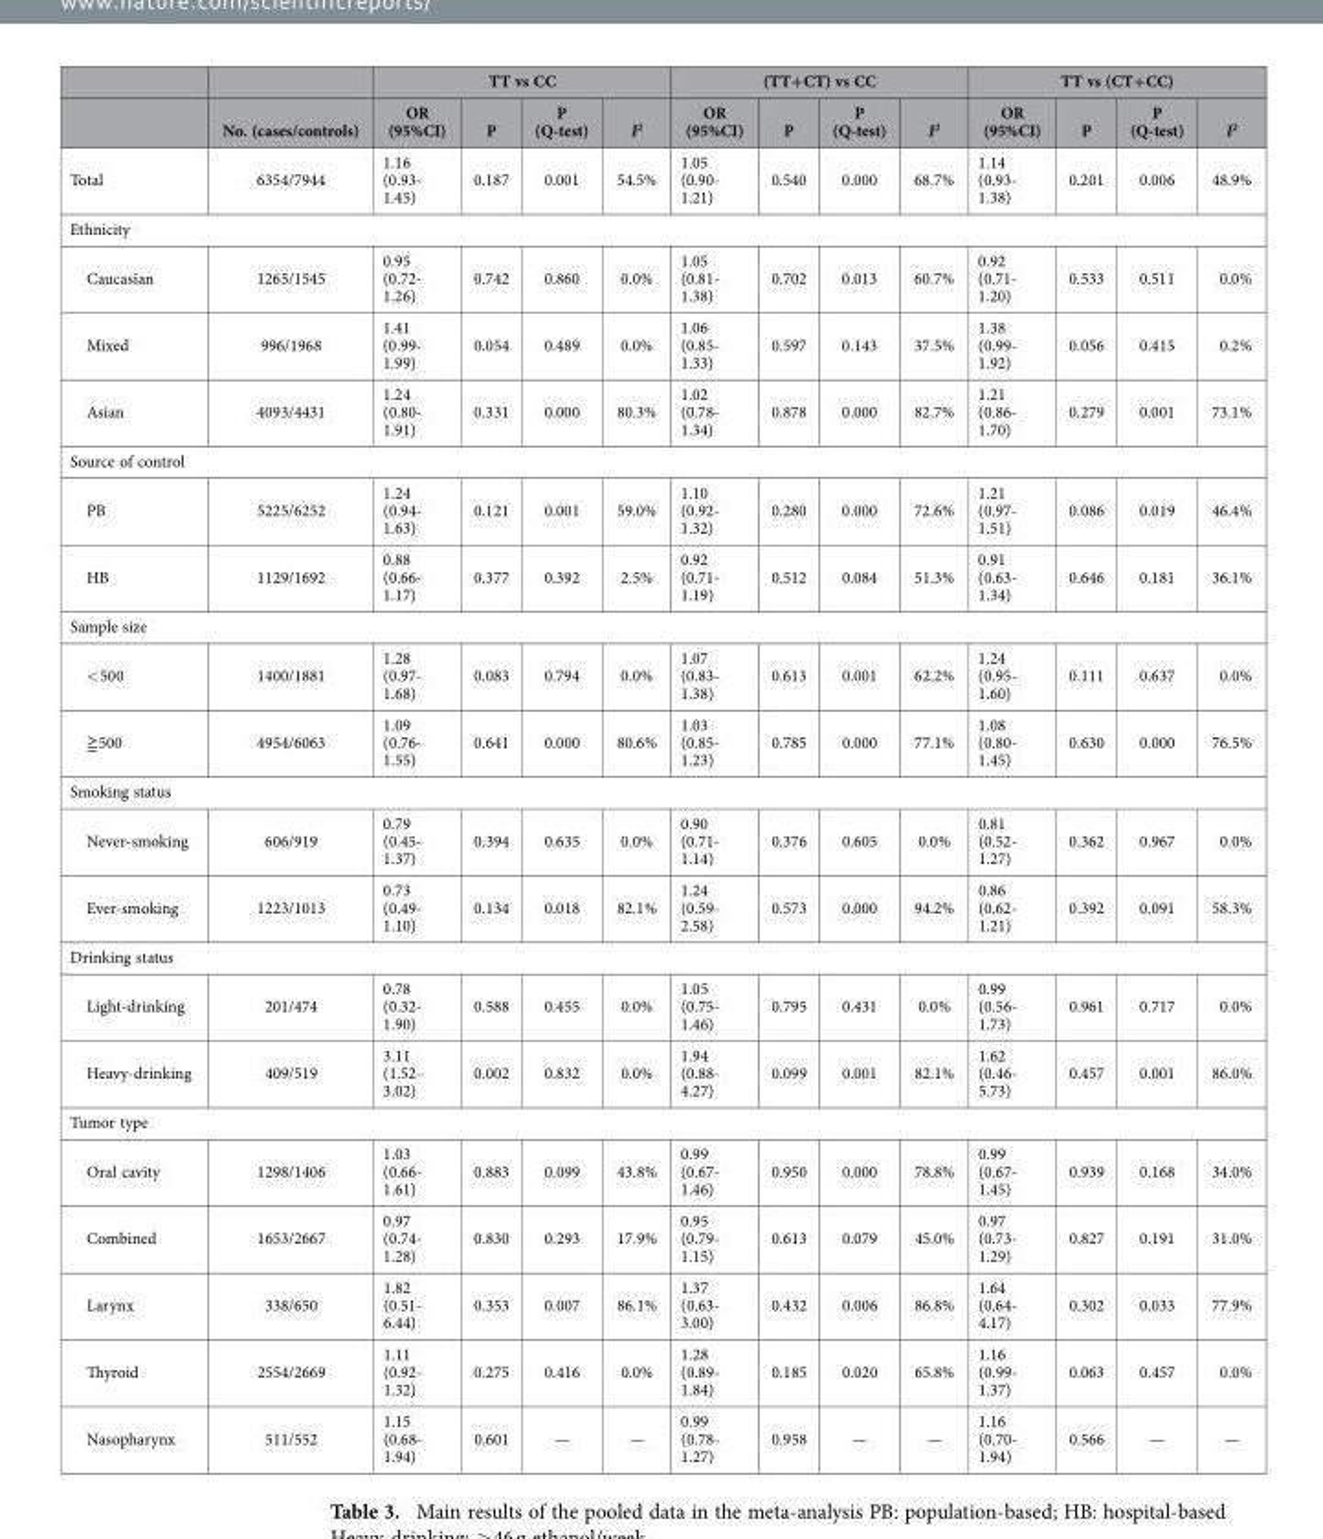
<table><thead><tr><td rowspan="2"></td><td rowspan="2">No. (cases/controls)</td><td colspan="4">TT vs CC</td><td colspan="4">(TT+CT) vs CC</td><td colspan="4">TT vs (CT+CC)</td></tr><tr><td>OR (95%CI)</td><td>P</td><td>P (Q-test)</td><td>I<sup>2</sup></td><td>OR (95%CI)</td><td>P</td><td>P (Q-test)</td><td>I<sup>2</sup></td><td>OR (95%CI)</td><td>P</td><td>P (Q-test)</td><td>I<sup>2</sup></td></tr></thead><tbody><tr><td>Total</td><td>6354/7944</td><td>1.16 (0.93- 1.45)</td><td>0.187</td><td>0.001</td><td>54.5%</td><td>1.05 (0.90- 1.21)</td><td>0.540</td><td>0.000</td><td>68.7%</td><td>1.14 (0.93- 1.38)</td><td>0.201</td><td>0.006</td><td>48.9%</td></tr><tr><td colspan="14">Ethnicity</td></tr><tr><td>Caucasian</td><td>1265/1545</td><td>0.95 (0.72- 1.26)</td><td>0.742</td><td>0.860</td><td>0.0%</td><td>1.05 (0.81- 1.38)</td><td>0.702</td><td>0.013</td><td>60.7%</td><td>0.92 (0.71- 1.20)</td><td>0.533</td><td>0.511</td><td>0.0%</td></tr><tr><td>Mixed</td><td>996/1968</td><td>1.41 (0.99- 1.99)</td><td>0.054</td><td>0.489</td><td>0.0%</td><td>1.06 (0.85- 1.33)</td><td>0.597</td><td>0.143</td><td>37.5%</td><td>1.38 (0.99- 1.92)</td><td>0.056</td><td>0.415</td><td>0.2%</td></tr><tr><td>Asian</td><td>4093/4431</td><td>1.24 (0.80- 1.91)</td><td>0.331</td><td>0.000</td><td>80.3%</td><td>1.02 (0.78- 1.34)</td><td>0.878</td><td>0.000</td><td>82.7%</td><td>1.21 (0.86- 1.70)</td><td>0.279</td><td>0.001</td><td>73.1%</td></tr><tr><td colspan="14">Source of control</td></tr><tr><td>PB</td><td>5225/6252</td><td>1.24 (0.94- 1.63)</td><td>0.121</td><td>0.001</td><td>59.0%</td><td>1.10 (0.92- 1.32)</td><td>0.280</td><td>0.000</td><td>72.6%</td><td>1.21 (0.97- 1.51)</td><td>0.086</td><td>0.019</td><td>46.4%</td></tr><tr><td>HB</td><td>1129/1692</td><td>0.88 (0.66- 1.17)</td><td>0.377</td><td>0.392</td><td>2.5%</td><td>0.92 (0.71- 1.19)</td><td>0.512</td><td>0.084</td><td>51.3%</td><td>0.91 (0.63- 1.34)</td><td>0.646</td><td>0.181</td><td>36.1%</td></tr><tr><td colspan="14">Sample size</td></tr><tr><td>&lt; 500</td><td>1400/1881</td><td>1.28 (0.97- 1.68)</td><td>0.083</td><td>0.794</td><td>0.0%</td><td>1.07 (0.83- 1.38)</td><td>0.613</td><td>0.001</td><td>62.2%</td><td>1.24 (0.95- 1.60)</td><td>0.111</td><td>0.637</td><td>0.0%</td></tr><tr><td>≧ 500</td><td>4954/6063</td><td>1.09 (0.76- 1.55)</td><td>0.641</td><td>0.000</td><td>80.6%</td><td>1.03 (0.85- 1.23)</td><td>0.785</td><td>0.000</td><td>77.1%</td><td>1.08 (0.80- 1.45)</td><td>0.630</td><td>0.000</td><td>76.5%</td></tr><tr><td colspan="14">Smoking status</td></tr><tr><td>Never-smoking</td><td>606/919</td><td>0.79 (0.45- 1.37)</td><td>0.394</td><td>0.635</td><td>0.0%</td><td>0.90 (0.71- 1.14)</td><td>0.376</td><td>0.605</td><td>0.0%</td><td>0.81 (0.52- 1.27)</td><td>0.362</td><td>0.967</td><td>0.0%</td></tr><tr><td>Ever-smoking</td><td>1223/1013</td><td>0.73 (0.49- 1.10)</td><td>0.134</td><td>0.018</td><td>82.1%</td><td>1.24 (0.59- 2.58)</td><td>0.573</td><td>0.000</td><td>94.2%</td><td>0.86 (0.62- 1.21)</td><td>0.392</td><td>0.091</td><td>58.3%</td></tr><tr><td colspan="14">Drinking status</td></tr><tr><td>Light-drinking</td><td>201/474</td><td>0.78 (0.32- 1.90)</td><td>0.588</td><td>0.455</td><td>0.0%</td><td>1.05 (0.75- 1.46)</td><td>0.795</td><td>0.431</td><td>0.0%</td><td>0.99 (0.56- 1.73)</td><td>0.961</td><td>0.717</td><td>0.0%</td></tr><tr><td>Heavy-drinking</td><td>409/519</td><td>3.11 (1.52- 3.02)</td><td>0.002</td><td>0.832</td><td>0.0%</td><td>1.94 (0.88- 4.27)</td><td>0.099</td><td>0.001</td><td>82.1%</td><td>1.62 (0.46- 5.73)</td><td>0.457</td><td>0.001</td><td>86.0%</td></tr><tr><td colspan="14">Tumor type</td></tr><tr><td>Oral cavity</td><td>1298/1406</td><td>1.03 (0.66- 1.61)</td><td>0.883</td><td>0.099</td><td>43.8%</td><td>0.99 (0.67- 1.46)</td><td>0.950</td><td>0.000</td><td>78.8%</td><td>0.99 (0.67- 1.45)</td><td>0.939</td><td>0.168</td><td>34.0%</td></tr><tr><td>Combined</td><td>1653/2667</td><td>0.97 (0.74- 1.28)</td><td>0.830</td><td>0.293</td><td>17.9%</td><td>0.95 (0.79- 1.15)</td><td>0.613</td><td>0.079</td><td>45.0%</td><td>0.97 (0.73- 1.29)</td><td>0.827</td><td>0.191</td><td>31.0%</td></tr><tr><td>Larynx</td><td>338/650</td><td>1.82 (0.51- 6.44)</td><td>0.353</td><td>0.007</td><td>86.1%</td><td>1.37 (0.63- 3.00)</td><td>0.432</td><td>0.006</td><td>86.8%</td><td>1.64 (0.64- 4.17)</td><td>0.302</td><td>0.033</td><td>77.9%</td></tr><tr><td>Thyroid</td><td>2554/2669</td><td>1.11 (0.92- 1.32)</td><td>0.275</td><td>0.416</td><td>0.0%</td><td>1.28 (0.89- 1.84)</td><td>0.185</td><td>0.020</td><td>65.8%</td><td>1.16 (0.99- 1.37)</td><td>0.063</td><td>0.457</td><td>0.0%</td></tr><tr><td>Nasopharynx</td><td>511/552</td><td>1.15 (0.68- 1.94)</td><td>0.601</td><td>—</td><td>—</td><td>0.99 (0.78- 1.27)</td><td>0.958</td><td>—</td><td>—</td><td>1.16 (0.70- 1.94)</td><td>0.566</td><td>—</td><td>—</td></tr></tbody></table>